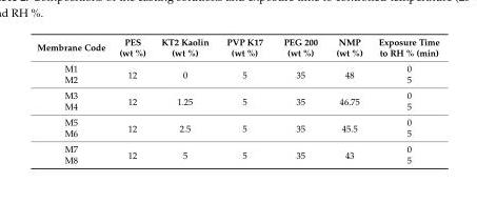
<table><thead><tr><td>Membrane Code</td><td>PES (wt %)</td><td>KT2 Kaolin (wt %)</td><td>PVP K17 (wt %)</td><td>PEG 200 (wt %)</td><td>NMP (wt %)</td><td>Exposure Time to RH % (min)</td></tr></thead><tbody><tr><td>M1</td><td rowspan="2">12</td><td rowspan="2">0</td><td rowspan="2">5</td><td rowspan="2">35</td><td rowspan="2">48</td><td>0</td></tr><tr><td>M2</td><td>5</td></tr><tr><td>M3</td><td rowspan="2">12</td><td rowspan="2">1.25</td><td rowspan="2">5</td><td rowspan="2">35</td><td rowspan="2">46.75</td><td>0</td></tr><tr><td>M4</td><td>5</td></tr><tr><td>M5</td><td rowspan="2">12</td><td rowspan="2">2.5</td><td rowspan="2">5</td><td rowspan="2">35</td><td rowspan="2">45.5</td><td>0</td></tr><tr><td>M6</td><td>5</td></tr><tr><td>M7</td><td rowspan="2">12</td><td rowspan="2">5</td><td rowspan="2">5</td><td rowspan="2">35</td><td rowspan="2">43</td><td>0</td></tr><tr><td>M8</td><td>5</td></tr></tbody></table>